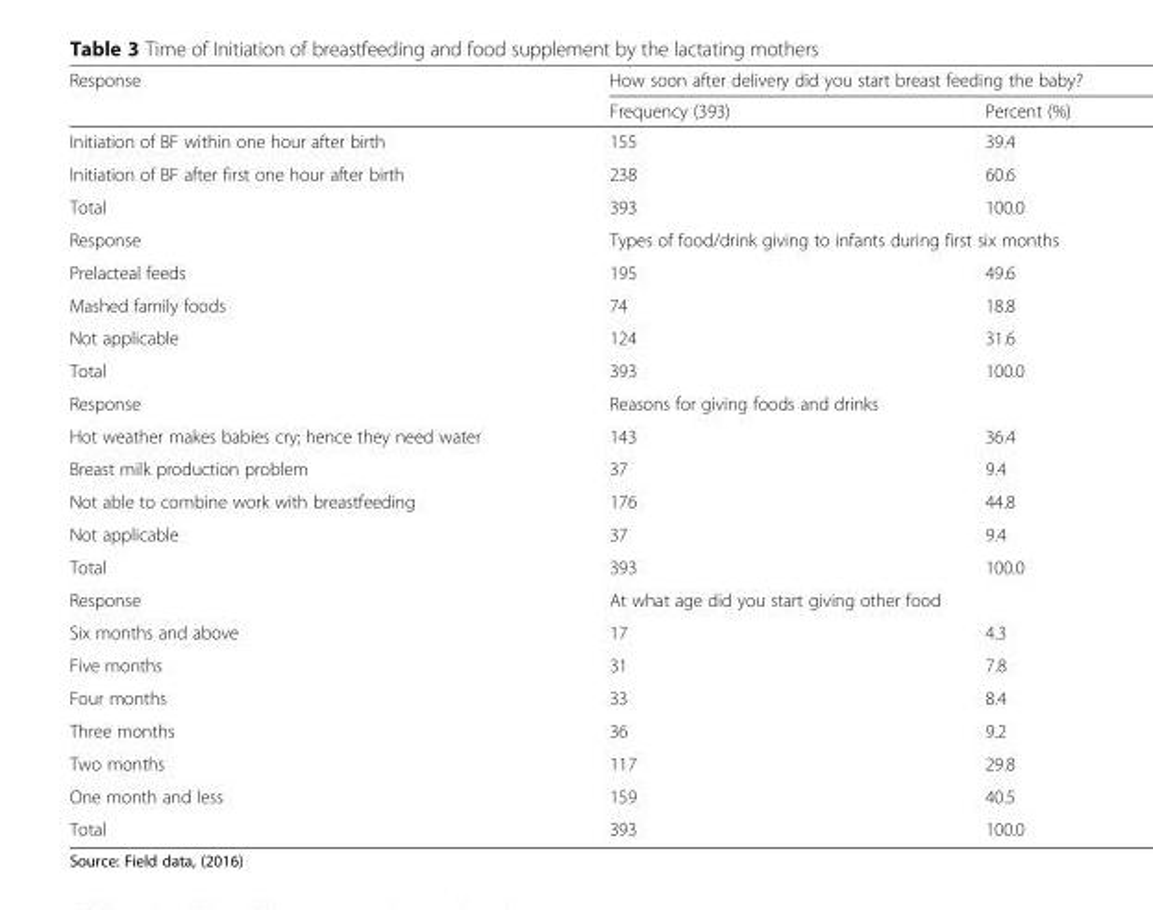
<table><thead><tr><td rowspan="2">Response</td><td colspan="2">How soon after delivery did you start breast feeding the baby?</td></tr><tr><td>Frequency (393)</td><td>Percent (%)</td></tr></thead><tbody><tr><td>Initiation of BF within one hour after birth</td><td>155</td><td>39.4</td></tr><tr><td>Initiation of BF after first one hour after birth</td><td>238</td><td>60.6</td></tr><tr><td>Total</td><td>393</td><td>100.0</td></tr><tr><td>Response</td><td colspan="2">Types of food/drink giving to infants during first six months</td></tr><tr><td>Prelacteal feeds</td><td>195</td><td>49.6</td></tr><tr><td>Mashed family foods</td><td>74</td><td>18.8</td></tr><tr><td>Not applicable</td><td>124</td><td>31.6</td></tr><tr><td>Total</td><td>393</td><td>100.0</td></tr><tr><td>Response</td><td colspan="2">Reasons for giving foods and drinks</td></tr><tr><td>Hot weather makes babies cry; hence they need water</td><td>143</td><td>36.4</td></tr><tr><td>Breast milk production problem</td><td>37</td><td>9.4</td></tr><tr><td>Not able to combine work with breastfeeding</td><td>176</td><td>44.8</td></tr><tr><td>Not applicable</td><td>37</td><td>9.4</td></tr><tr><td>Total</td><td>393</td><td>100.0</td></tr><tr><td>Response</td><td colspan="2">At what age did you start giving other food</td></tr><tr><td>Six months and above</td><td>17</td><td>4.3</td></tr><tr><td>Five months</td><td>31</td><td>7.8</td></tr><tr><td>Four months</td><td>33</td><td>8.4</td></tr><tr><td>Three months</td><td>36</td><td>9.2</td></tr><tr><td>Two months</td><td>117</td><td>29.8</td></tr><tr><td>One month and less</td><td>159</td><td>40.5</td></tr><tr><td>Total</td><td>393</td><td>100.0</td></tr></tbody></table>